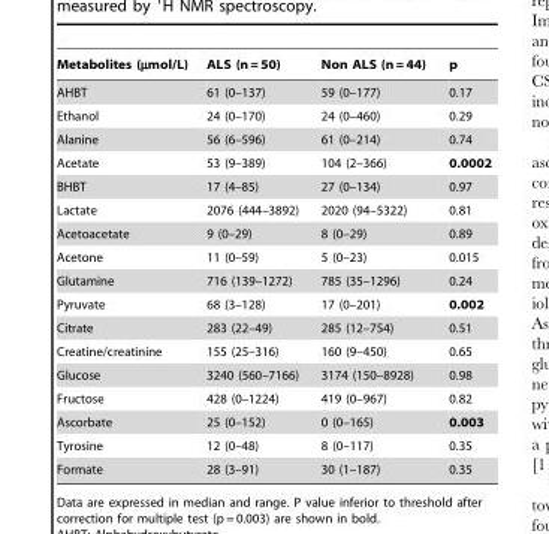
<table><thead><tr><td>Metabolites (µmol/L)</td><td>ALS (n = 50)</td><td>Non ALS (n = 44)</td><td>p</td></tr></thead><tbody><tr><td>AHBT</td><td>61 (0–137)</td><td>59 (0–177)</td><td>0.17</td></tr><tr><td>Ethanol</td><td>24 (0–170)</td><td>24 (0–460)</td><td>0.29</td></tr><tr><td>Alanine</td><td>56 (6–596)</td><td>61 (0–214)</td><td>0.74</td></tr><tr><td>Acetate</td><td>53 (9–389)</td><td>104 (2–366)</td><td>0.0002</td></tr><tr><td>BHBT</td><td>17 (4–85)</td><td>27 (0–134)</td><td>0.97</td></tr><tr><td>Lactate</td><td>2076 (444–3892)</td><td>2020 (94–5322)</td><td>0.81</td></tr><tr><td>Acetoacetate</td><td>9 (0–29)</td><td>8 (0–29)</td><td>0.89</td></tr><tr><td>Acetone</td><td>11 (0–59)</td><td>5 (0–23)</td><td>0.015</td></tr><tr><td>Glutamine</td><td>716 (139–1272)</td><td>785 (35–1296)</td><td>0.24</td></tr><tr><td>Pyruvate</td><td>68 (3–128)</td><td>17 (0–201)</td><td>0.002</td></tr><tr><td>Citrate</td><td>283 (22–49)</td><td>285 (12–754)</td><td>0.51</td></tr><tr><td>Creatine/creatinine</td><td>155 (25–316)</td><td>160 (9–450)</td><td>0.65</td></tr><tr><td>Glucose</td><td>3240 (560–7166)</td><td>3174 (150–8928)</td><td>0.98</td></tr><tr><td>Fructose</td><td>428 (0–1224)</td><td>419 (0–967)</td><td>0.82</td></tr><tr><td>Ascorbate</td><td>25 (0–152)</td><td>0 (0–165)</td><td>0.003</td></tr><tr><td>Tyrosine</td><td>12 (0–48)</td><td>8 (0–117)</td><td>0.35</td></tr><tr><td>Formate</td><td>28 (3–91)</td><td>30 (1–187)</td><td>0.35</td></tr></tbody></table>